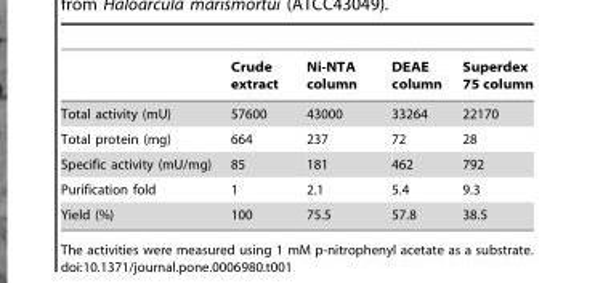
<table><thead><tr><td></td><td>Crude extract</td><td>Ni-NTA column</td><td>DEAE column</td><td>Superdex 75 column</td></tr></thead><tbody><tr><td>Total activity (mU)</td><td>57600</td><td>43000</td><td>33264</td><td>22170</td></tr><tr><td>Total protein (mg)</td><td>664</td><td>237</td><td>72</td><td>28</td></tr><tr><td>Specific activity (mU/mg)</td><td>85</td><td>181</td><td>462</td><td>792</td></tr><tr><td>Purification fold</td><td>1</td><td>2.1</td><td>5.4</td><td>9.3</td></tr><tr><td>Yield (%)</td><td>100</td><td>75.5</td><td>57.8</td><td>38.5</td></tr></tbody></table>